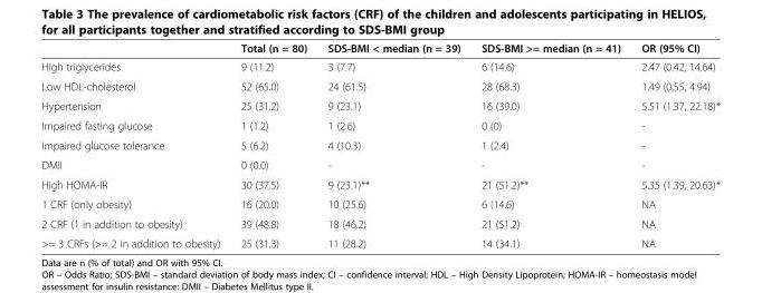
<table><thead><tr><td></td><td>Total (n = 80)</td><td>SDS-BMI &lt; median (n = 39)</td><td>SDS-BMI &gt;= median (n = 41)</td><td>OR (95% CI)</td></tr></thead><tbody><tr><td>High triglycerides</td><td>9 (11.2)</td><td>3 (7.7)</td><td>6 (14.6)</td><td>2.47 (0.42, 14.64)</td></tr><tr><td>Low HDL-cholesterol</td><td>52 (65.0)</td><td>24 (61.5)</td><td>28 (68.3)</td><td>1.49 (0.55, 4.94)</td></tr><tr><td>Hypertension</td><td>25 (31.2)</td><td>9 (23.1)</td><td>16 (39.0)</td><td>5.51 (1.37, 22.18)*</td></tr><tr><td>Impaired fasting glucose</td><td>1 (1.2)</td><td>1 (2.6)</td><td>0 (0)</td><td>-</td></tr><tr><td>Impaired glucose tolerance</td><td>5 (6.2)</td><td>4 (10.3)</td><td>1 (2.4)</td><td>-</td></tr><tr><td>DMII</td><td>0 (0.0)</td><td>-</td><td>-</td><td>-</td></tr><tr><td>High HOMA-IR</td><td>30 (37.5)</td><td>9 (23.1)**</td><td>21 (51.2)**</td><td>5.35 (1.39, 20.63)*</td></tr><tr><td>1 CRF (only obesity)</td><td>16 (20.0)</td><td>10 (25.6)</td><td>6 (14.6)</td><td>NA</td></tr><tr><td>2 CRF (1 in addition to obesity)</td><td>39 (48.8)</td><td>18 (46.2)</td><td>21 (51.2)</td><td>NA</td></tr><tr><td>&gt;= 3 CRFs (&gt;= 2 in addition to obesity)</td><td>25 (31.3)</td><td>11 (28.2)</td><td>14 (34.1)</td><td>NA</td></tr></tbody></table>